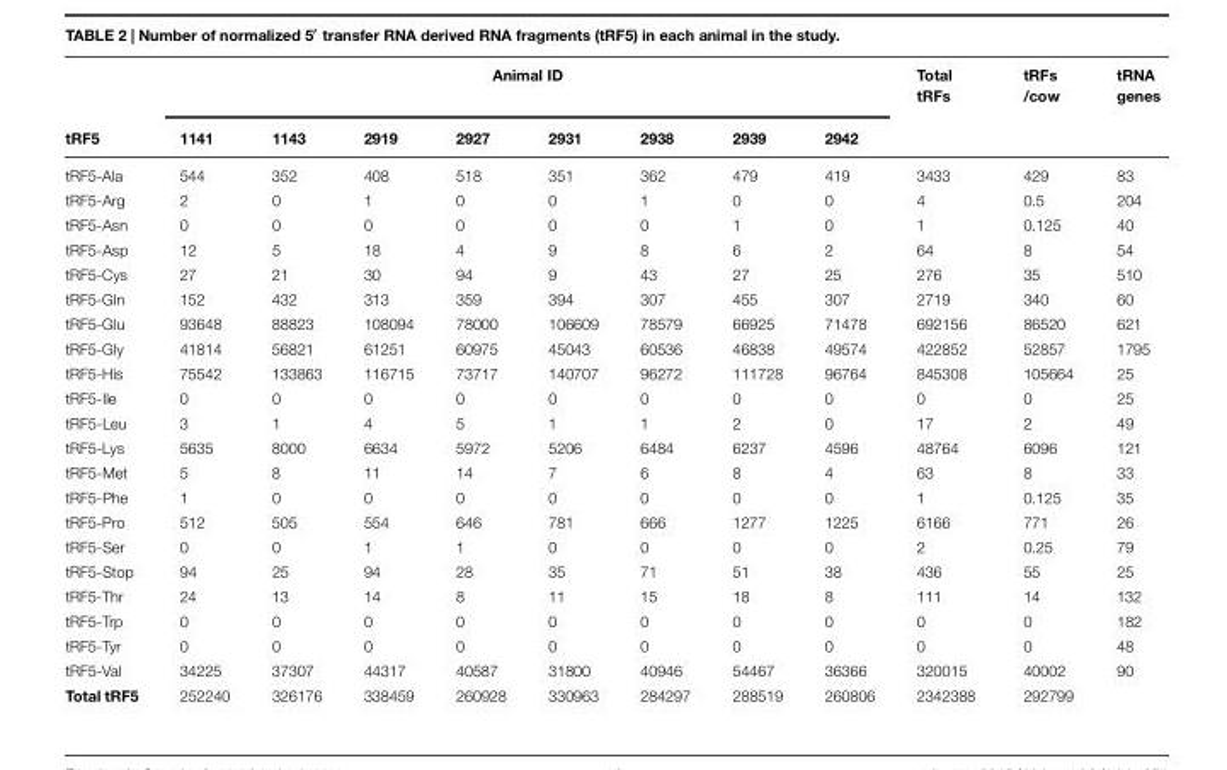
<table><thead><tr><td rowspan="2">tRF5</td><td colspan="8">Animal ID</td><td rowspan="2">Total tRFs</td><td rowspan="2">tRFs /cow</td><td rowspan="2">tRNA genes</td></tr><tr><td>1141</td><td>1143</td><td>2919</td><td>2927</td><td>2931</td><td>2938</td><td>2939</td><td>2942</td></tr></thead><tbody><tr><td>tRF5-Ala</td><td>544</td><td>352</td><td>408</td><td>518</td><td>351</td><td>362</td><td>479</td><td>419</td><td>3433</td><td>429</td><td>83</td></tr><tr><td>tRF5-Arg</td><td>2</td><td>0</td><td>1</td><td>0</td><td>0</td><td>1</td><td>0</td><td>0</td><td>4</td><td>0.5</td><td>204</td></tr><tr><td>tRF5-Asn</td><td>0</td><td>0</td><td>0</td><td>0</td><td>0</td><td>0</td><td>1</td><td>0</td><td>1</td><td>0.125</td><td>40</td></tr><tr><td>tRF5-Asp</td><td>12</td><td>5</td><td>18</td><td>4</td><td>9</td><td>8</td><td>6</td><td>2</td><td>64</td><td>8</td><td>54</td></tr><tr><td>tRF5-Cys</td><td>27</td><td>21</td><td>30</td><td>94</td><td>9</td><td>43</td><td>27</td><td>25</td><td>276</td><td>35</td><td>510</td></tr><tr><td>tRF5-Gln</td><td>152</td><td>432</td><td>313</td><td>359</td><td>394</td><td>307</td><td>455</td><td>307</td><td>2719</td><td>340</td><td>60</td></tr><tr><td>tRF5-Glu</td><td>93648</td><td>88823</td><td>108094</td><td>78000</td><td>106609</td><td>78579</td><td>66925</td><td>71478</td><td>692156</td><td>86520</td><td>621</td></tr><tr><td>tRF5-Gly</td><td>41814</td><td>56821</td><td>61251</td><td>60975</td><td>45043</td><td>60536</td><td>46838</td><td>49574</td><td>422852</td><td>52857</td><td>1795</td></tr><tr><td>tRF5-His</td><td>75542</td><td>133863</td><td>116715</td><td>73717</td><td>140707</td><td>96272</td><td>111728</td><td>96764</td><td>845308</td><td>105664</td><td>25</td></tr><tr><td>tRF5-Ile</td><td>0</td><td>0</td><td>0</td><td>0</td><td>0</td><td>0</td><td>0</td><td>0</td><td>0</td><td>0</td><td>25</td></tr><tr><td>tRF5-Leu</td><td>3</td><td>1</td><td>4</td><td>5</td><td>1</td><td>1</td><td>2</td><td>0</td><td>17</td><td>2</td><td>49</td></tr><tr><td>tRF5-Lys</td><td>5635</td><td>8000</td><td>6634</td><td>5972</td><td>5206</td><td>6484</td><td>6237</td><td>4596</td><td>48764</td><td>6096</td><td>121</td></tr><tr><td>tRF5-Met</td><td>5</td><td>8</td><td>11</td><td>14</td><td>7</td><td>6</td><td>8</td><td>4</td><td>63</td><td>8</td><td>33</td></tr><tr><td>tRF5-Phe</td><td>1</td><td>0</td><td>0</td><td>0</td><td>0</td><td>0</td><td>0</td><td>0</td><td>1</td><td>0.125</td><td>35</td></tr><tr><td>tRF5-Pro</td><td>512</td><td>505</td><td>554</td><td>646</td><td>781</td><td>666</td><td>1277</td><td>1225</td><td>6166</td><td>771</td><td>26</td></tr><tr><td>tRF5-Ser</td><td>0</td><td>0</td><td>1</td><td>1</td><td>0</td><td>0</td><td>0</td><td>0</td><td>2</td><td>0.25</td><td>79</td></tr><tr><td>tRF5-Stop</td><td>94</td><td>25</td><td>94</td><td>28</td><td>35</td><td>71</td><td>51</td><td>38</td><td>436</td><td>55</td><td>25</td></tr><tr><td>tRF5-Thr</td><td>24</td><td>13</td><td>14</td><td>8</td><td>11</td><td>15</td><td>18</td><td>8</td><td>111</td><td>14</td><td>132</td></tr><tr><td>tRF5-Trp</td><td>0</td><td>0</td><td>0</td><td>0</td><td>0</td><td>0</td><td>0</td><td>0</td><td>0</td><td>0</td><td>182</td></tr><tr><td>tRF5-Tyr</td><td>0</td><td>0</td><td>0</td><td>0</td><td>0</td><td>0</td><td>0</td><td>0</td><td>0</td><td>0</td><td>48</td></tr><tr><td>tRF5-Val</td><td>34225</td><td>37307</td><td>44317</td><td>40587</td><td>31800</td><td>40946</td><td>54467</td><td>36366</td><td>320015</td><td>40002</td><td>90</td></tr><tr><td>Total tRF5</td><td>252240</td><td>326176</td><td>338459</td><td>260928</td><td>330963</td><td>284297</td><td>288519</td><td>260806</td><td>2342388</td><td>292799</td><td></td></tr></tbody></table>